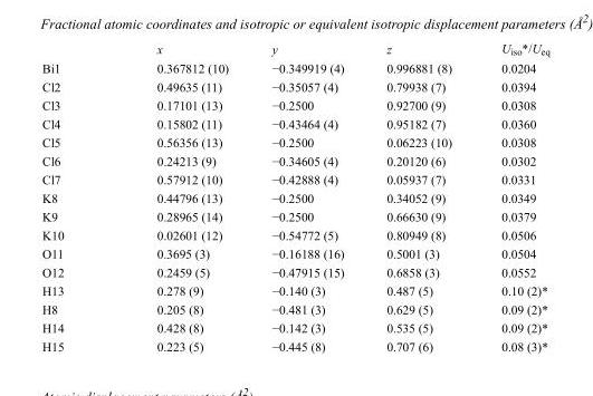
<table><thead><tr><td></td><td>x</td><td>y</td><td>z</td><td>U<sub>iso</sub>*/U<sub>eq</sub></td></tr></thead><tbody><tr><td>Bi1</td><td>0.367812 (10)</td><td>−0.349919 (4)</td><td>0.996881 (8)</td><td>0.0204</td></tr><tr><td>Cl2</td><td>0.49635 (11)</td><td>−0.35057 (4)</td><td>0.79938 (7)</td><td>0.0394</td></tr><tr><td>Cl3</td><td>0.17101 (13)</td><td>−0.2500</td><td>0.92700 (9)</td><td>0.0308</td></tr><tr><td>Cl4</td><td>0.15802 (11)</td><td>−0.43464 (4)</td><td>0.95182 (7)</td><td>0.0360</td></tr><tr><td>Cl5</td><td>0.56356 (13)</td><td>−0.2500</td><td>0.06223 (10)</td><td>0.0308</td></tr><tr><td>Cl6</td><td>0.24213 (9)</td><td>−0.34605 (4)</td><td>0.20120 (6)</td><td>0.0302</td></tr><tr><td>Cl7</td><td>0.57912 (10)</td><td>−0.42888 (4)</td><td>0.05937 (7)</td><td>0.0331</td></tr><tr><td>K8</td><td>0.44796 (13)</td><td>−0.2500</td><td>0.34052 (9)</td><td>0.0349</td></tr><tr><td>K9</td><td>0.28965 (14)</td><td>−0.2500</td><td>0.66630 (9)</td><td>0.0379</td></tr><tr><td>K10</td><td>0.02601 (12)</td><td>−0.54772 (5)</td><td>0.80949 (8)</td><td>0.0506</td></tr><tr><td>O11</td><td>0.3695 (3)</td><td>−0.16188 (16)</td><td>0.5001 (3)</td><td>0.0504</td></tr><tr><td>O12</td><td>0.2459 (5)</td><td>−0.47915 (15)</td><td>0.6858 (3)</td><td>0.0552</td></tr><tr><td>H13</td><td>0.278 (9)</td><td>−0.140 (3)</td><td>0.487 (5)</td><td>0.10 (2)*</td></tr><tr><td>H8</td><td>0.205 (8)</td><td>−0.481 (3)</td><td>0.629 (5)</td><td>0.09 (2)*</td></tr><tr><td>H14</td><td>0.428 (8)</td><td>−0.142 (3)</td><td>0.535 (5)</td><td>0.09 (2)*</td></tr><tr><td>H15</td><td>0.223 (5)</td><td>−0.445 (8)</td><td>0.707 (6)</td><td>0.08 (3)*</td></tr></tbody></table>